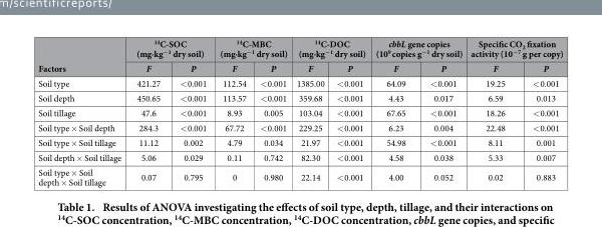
<table><thead><tr><td rowspan="2">Factors</td><td colspan="2"><sup>14</sup>C-SOC (mg·kg<sup>−1</sup> dry soil)</td><td colspan="2"><sup>14</sup>C-MBC (mg·kg<sup>−1</sup> dry soil)</td><td colspan="2"><sup>14</sup>C-DOC (mg·kg<sup>−1</sup> dry soil)</td><td colspan="2">cbbL gene copies (10<sup>9</sup> copies g<sup>−1</sup> dry soil)</td><td colspan="2">Specific CO<sub>2</sub> fixation activity (10<sup>−7</sup> g per copy)</td></tr><tr><td>F</td><td>P</td><td>F</td><td>P</td><td>F</td><td>P</td><td>F</td><td>P</td><td>F</td><td>P</td></tr></thead><tbody><tr><td>Soil type</td><td>421.27</td><td>&lt; 0.001</td><td>112.54</td><td>&lt; 0.001</td><td>1385.00</td><td>&lt; 0.001</td><td>64.09</td><td>&lt; 0.001</td><td>19.25</td><td>&lt; 0.001</td></tr><tr><td>Soil depth</td><td>450.65</td><td>&lt; 0.001</td><td>113.57</td><td>&lt; 0.001</td><td>359.68</td><td>&lt; 0.001</td><td>4.43</td><td>0.017</td><td>6.59</td><td>0.013</td></tr><tr><td>Soil tillage</td><td>47.6</td><td>&lt; 0.001</td><td>8.93</td><td>0.005</td><td>103.04</td><td>&lt; 0.001</td><td>67.65</td><td>&lt; 0.001</td><td>18.26</td><td>&lt; 0.001</td></tr><tr><td>Soil type × Soil depth</td><td>284.3</td><td>&lt; 0.001</td><td>67.72</td><td>&lt; 0.001</td><td>229.25</td><td>&lt; 0.001</td><td>6.23</td><td>0.004</td><td>22.48</td><td>&lt; 0.001</td></tr><tr><td>Soil type × Soil tillage</td><td>11.12</td><td>0.002</td><td>4.79</td><td>0.034</td><td>21.97</td><td>&lt; 0.001</td><td>54.98</td><td>&lt; 0.001</td><td>8.11</td><td>0.001</td></tr><tr><td>Soil depth × Soil tillage</td><td>5.06</td><td>0.029</td><td>0.11</td><td>0.742</td><td>82.30</td><td>&lt; 0.001</td><td>4.58</td><td>0.038</td><td>5.33</td><td>0.007</td></tr><tr><td>Soil type × Soil depth × Soil tillage</td><td>0.07</td><td>0.795</td><td>0</td><td>0.980</td><td>22.14</td><td>&lt; 0.001</td><td>4.00</td><td>0.052</td><td>0.02</td><td>0.883</td></tr></tbody></table>